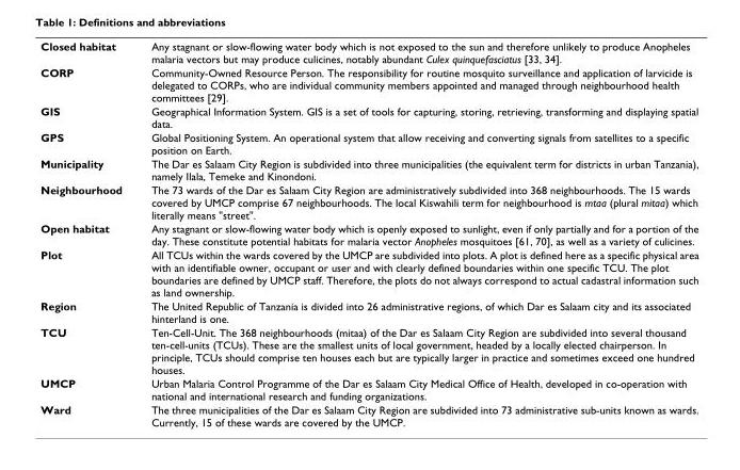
<table><tbody><tr><td>Closed habitat</td><td>Any stagnant or slow-flowing water body which is not exposed to the sun and therefore unlikely to produce Anopheles malaria vectors but may produce culicines, notably abundant Culex quinquefasciatus [33, 34].</td></tr><tr><td>CORP</td><td>Community-Owned Resource Person. The responsibility for routine mosquito surveillance and application of larvicide is delegated to CORPs, who are individual community members appointed and managed through neighbourhood health committees [29].</td></tr><tr><td>GIS</td><td>Geographical Information System. GIS is a set of tools for capturing, storing, retrieving, transforming and displaying spatial data.</td></tr><tr><td>GPS</td><td>Global Positioning System. An operational system that allow receiving and converting signals from satellites to a specific position on Earth.</td></tr><tr><td>Municipality</td><td>The Dar es Salaam City Region is subdivided into three municipalities (the equivalent term for districts in urban Tanzania), namely Ilala, Temeke and Kinondoni.</td></tr><tr><td>Neighbourhood</td><td>The 73 wards of the Dar es Salaam City Region are administratively subdivided into 368 neighbourhoods. The 15 wards covered by UMCP comprise 67 neighbourhoods. The local Kiswahili term for neighbourhood is mtaa (plural mitaa) which literally means &quot;street&quot;.</td></tr><tr><td>Open habitat</td><td>Any stagnant or slow-flowing water body which is openly exposed to sunlight, even if only partially and for a portion of the day. These constitute potential habitats for malaria vector Anopheles mosquitoes [61, 70], as well as a variety of culicines.</td></tr><tr><td>Plot</td><td>All TCUs within the wards covered by the UMCP are subdivided into plots. A plot is defined here as a specific physical area with an identifiable owner, occupant or user and with clearly defined boundaries within one specific TCU. The plot boundaries are defined by UMCP staff. Therefore, the plots do not always correspond to actual cadastral information such as land ownership.</td></tr><tr><td>Region</td><td>The United Republic of Tanzania is divided into 26 administrative regions, of which Dar es Salaam city and its associated hinterland is one.</td></tr><tr><td>TCU</td><td>Ten-Cell-Unit. The 368 neighbourhoods (mitaa) of the Dar es Salaam City Region are subdivided into several thousand ten-cell-units (TCUs). These are the smallest units of local government, headed by a locally elected chairperson. In principle, TCUs should comprise ten houses each but are typically larger in practice and sometimes exceed one hundred houses.</td></tr><tr><td>UMCP</td><td>Urban Malaria Control Programme of the Dar es Salaam City Medical Office of Health, developed in co-operation with national and international research and funding organizations.</td></tr><tr><td>Ward</td><td>The three municipalities of the Dar es Salaam City Region are subdivided into 73 administrative sub-units known as wards. Currently, 15 of these wards are covered by the UMCP.</td></tr></tbody></table>